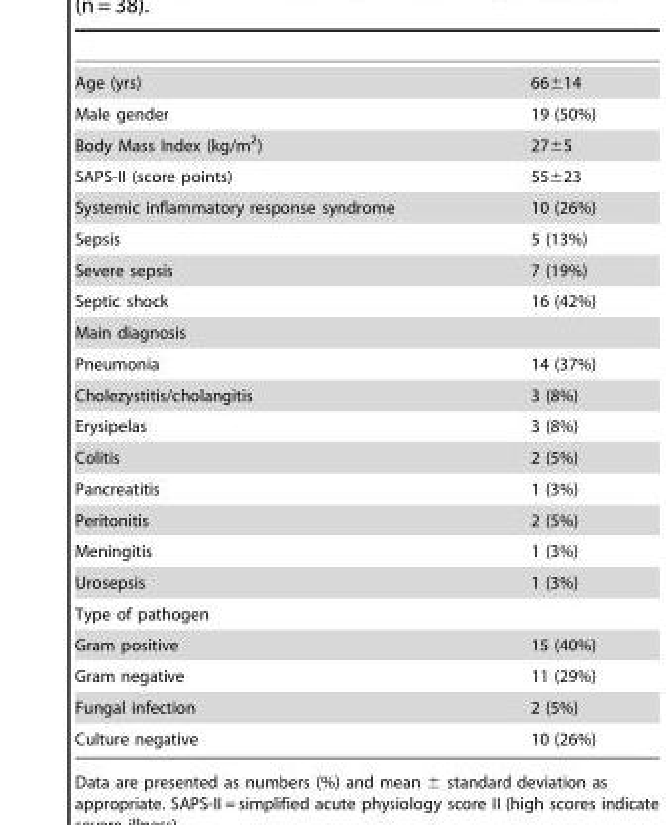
<table><tbody><tr><td>Age (yrs)</td><td>66±14</td></tr><tr><td>Male gender</td><td>19 (50%)</td></tr><tr><td>Body Mass Index (kg/m<sup>2</sup>)</td><td>27±5</td></tr><tr><td>SAPS-II (score points)</td><td>55±23</td></tr><tr><td>Systemic inflammatory response syndrome</td><td>10 (26%)</td></tr><tr><td>Sepsis</td><td>5 (13%)</td></tr><tr><td>Severe sepsis</td><td>7 (19%)</td></tr><tr><td>Septic shock</td><td>16 (42%)</td></tr><tr><td colspan="2">Main diagnosis</td></tr><tr><td>Pneumonia</td><td>14 (37%)</td></tr><tr><td>Cholezystitis/cholangitis</td><td>3 (8%)</td></tr><tr><td>Erysipelas</td><td>3 (8%)</td></tr><tr><td>Colitis</td><td>2 (5%)</td></tr><tr><td>Pancreatitis</td><td>1 (3%)</td></tr><tr><td>Peritonitis</td><td>2 (5%)</td></tr><tr><td>Meningitis</td><td>1 (3%)</td></tr><tr><td>Urosepsis</td><td>1 (3%)</td></tr><tr><td colspan="2">Type of pathogen</td></tr><tr><td>Gram positive</td><td>15 (40%)</td></tr><tr><td>Gram negative</td><td>11 (29%)</td></tr><tr><td>Fungal infection</td><td>2 (5%)</td></tr><tr><td>Culture negative</td><td>10 (26%)</td></tr></tbody></table>